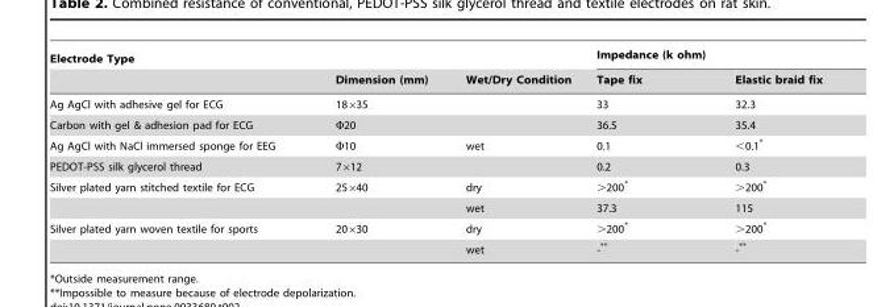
<table><thead><tr><td rowspan="2">Electrode Type</td><td rowspan="2">Dimension (mm)</td><td rowspan="2">Wet/Dry Condition</td><td colspan="2">Impedance (k ohm)</td></tr><tr><td>Tape fix</td><td>Elastic braid fix</td></tr></thead><tbody><tr><td>Ag AgCl with adhesive gel for ECG</td><td>18×35</td><td></td><td>33</td><td>32.3</td></tr><tr><td>Carbon with gel &amp; adhesion pad for ECG</td><td>Φ20</td><td></td><td>36.5</td><td>35.4</td></tr><tr><td>Ag AgCl with NaCl immersed sponge for EEG</td><td>Φ10</td><td>wet</td><td>0.1</td><td>&lt;0.1*</td></tr><tr><td>PEDOT-PSS silk glycerol thread</td><td>7×12</td><td></td><td>0.2</td><td>0.3</td></tr><tr><td rowspan="2">Silver plated yarn stitched textile for ECG</td><td>25×40</td><td>dry</td><td>&gt;200*</td><td>&gt;200*</td></tr><tr><td></td><td>wet</td><td>37.3</td><td>115</td></tr><tr><td rowspan="2">Silver plated yarn woven textile for sports</td><td>20×30</td><td>dry</td><td>&gt;200*</td><td>&gt;200*</td></tr><tr><td></td><td>wet</td><td>-**</td><td>-**</td></tr></tbody></table>